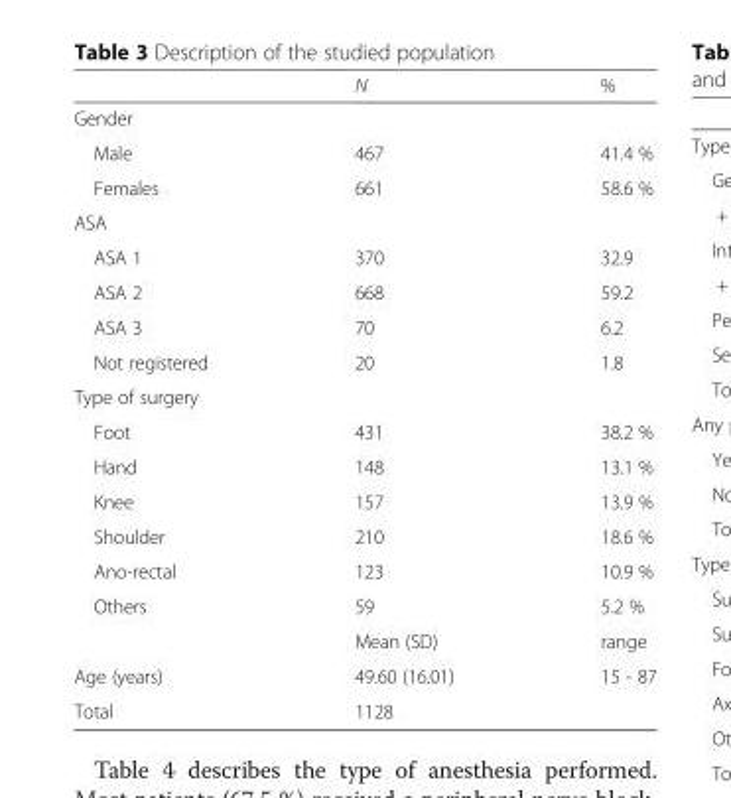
<table><thead><tr><td></td><td>N</td><td>%</td></tr></thead><tbody><tr><td colspan="3">Gender</td></tr><tr><td>Male</td><td>467</td><td>41.4 %</td></tr><tr><td>Females</td><td>661</td><td>58.6 %</td></tr><tr><td colspan="3">ASA</td></tr><tr><td>ASA 1</td><td>370</td><td>32.9</td></tr><tr><td>ASA 2</td><td>668</td><td>59.2</td></tr><tr><td>ASA 3</td><td>70</td><td>6.2</td></tr><tr><td>Not registered</td><td>20</td><td>1.8</td></tr><tr><td colspan="3">Type of surgery</td></tr><tr><td>Foot</td><td>431</td><td>38.2 %</td></tr><tr><td>Hand</td><td>148</td><td>13.1 %</td></tr><tr><td>Knee</td><td>157</td><td>13.9 %</td></tr><tr><td>Shoulder</td><td>210</td><td>18.6 %</td></tr><tr><td>Ano-rectal</td><td>123</td><td>10.9 %</td></tr><tr><td rowspan="2">Others</td><td>59</td><td>5.2 %</td></tr><tr><td>Mean (SD)</td><td>range</td></tr><tr><td>Age (years)</td><td>49.60 (16.01)</td><td>15 - 87</td></tr><tr><td>Total</td><td>1128</td><td></td></tr></tbody></table>